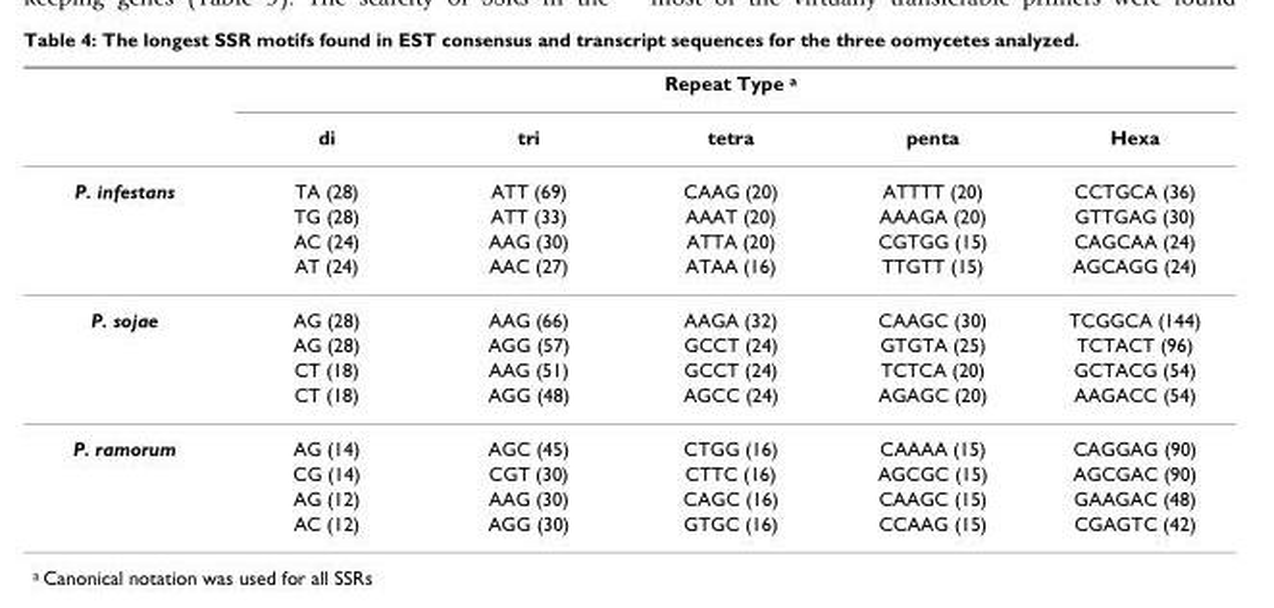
<table><thead><tr><td rowspan="2"></td><td colspan="5">Repeat Type a</td></tr><tr><td>di</td><td>tri</td><td>tetra</td><td>penta</td><td>Hexa</td></tr></thead><tbody><tr><td rowspan="4">P. infestans</td><td>TA (28)</td><td>ATT (69)</td><td>CAAG (20)</td><td>ATTTT (20)</td><td>CCTGCA (36)</td></tr><tr><td>TG (28)</td><td>ATT (33)</td><td>AAAT (20)</td><td>AAAGA (20)</td><td>GTTGAG (30)</td></tr><tr><td>AC (24)</td><td>AAG (30)</td><td>ATTA (20)</td><td>CGTGG (15)</td><td>CAGCAA (24)</td></tr><tr><td>AT (24)</td><td>AAC (27)</td><td>ATAA (16)</td><td>TTGTT (15)</td><td>AGCAGG (24)</td></tr><tr><td rowspan="4">P. sojae</td><td>AG (28)</td><td>AAG (66)</td><td>AAGA (32)</td><td>CAAGC (30)</td><td>TCGGCA (144)</td></tr><tr><td>AG (28)</td><td>AGG (57)</td><td>GCCT (24)</td><td>GTGTA (25)</td><td>TCTACT (96)</td></tr><tr><td>CT (18)</td><td>AAG (51)</td><td>GCCT (24)</td><td>TCTCA (20)</td><td>GCTACG (54)</td></tr><tr><td>CT (18)</td><td>AGG (48)</td><td>AGCC (24)</td><td>AGAGC (20)</td><td>AAGACC (54)</td></tr><tr><td rowspan="4">P. ramorum</td><td>AG (14)</td><td>AGC (45)</td><td>CTGG (16)</td><td>CAAAA (15)</td><td>CAGGAG (90)</td></tr><tr><td>CG (14)</td><td>CGT (30)</td><td>CTTC (16)</td><td>AGCGC (15)</td><td>AGCGAC (90)</td></tr><tr><td>AG (12)</td><td>AAG (30)</td><td>CAGC (16)</td><td>CAAGC (15)</td><td>GAAGAC (48)</td></tr><tr><td>AC (12)</td><td>AGG (30)</td><td>GTGC (16)</td><td>CCAAG (15)</td><td>CGAGTC (42)</td></tr></tbody></table>